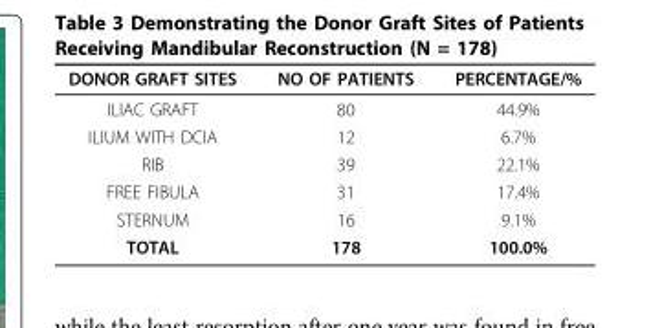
<table><thead><tr><td>DONOR GRAFT SITES</td><td>NO OF PATIENTS</td><td>PERCENTAGE/%</td></tr></thead><tbody><tr><td>ILIAC GRAFT</td><td>80</td><td>44.9%</td></tr><tr><td>ILIUM WITH DCIA</td><td>12</td><td>6.7%</td></tr><tr><td>RIB</td><td>39</td><td>22.1%</td></tr><tr><td>FREE FIBULA</td><td>31</td><td>17.4%</td></tr><tr><td>STERNUM</td><td>16</td><td>9.1%</td></tr><tr><td>TOTAL</td><td>178</td><td>100.0%</td></tr></tbody></table>